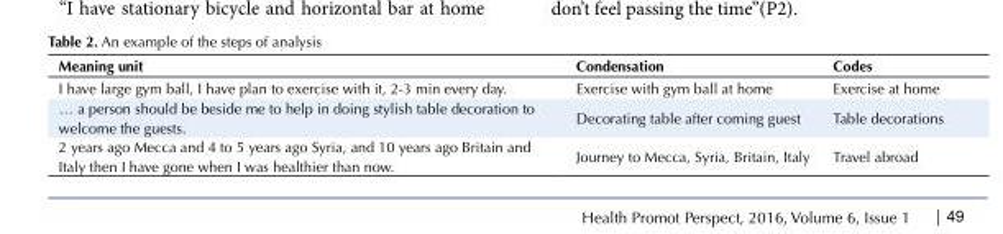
<table><tbody><tr><td>Meaning unit</td><td>Condensation</td><td>Codes</td></tr><tr><td>I have large gym ball, I have plan to exercise with it, 2-3 min every day.</td><td>Exercise with gym ball at home</td><td>Exercise at home</td></tr><tr><td>… a person should be beside me to help in doing stylish table decoration to welcome the guests.</td><td>Decorating table after coming guest</td><td>Table decorations</td></tr><tr><td>2 years ago Mecca and 4 to 5 years ago Syria, and 10 years ago Britain and Italy then I have gone when I was healthier than now.</td><td>Journey to Mecca, Syria, Britain, Italy</td><td>Travel abroad</td></tr></tbody></table>